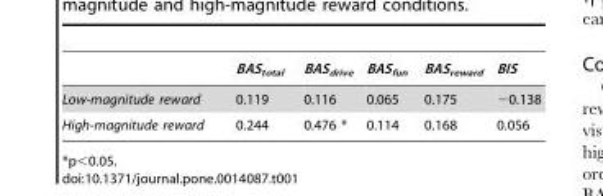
<table><thead><tr><td></td><td>BAS<sub>total</sub></td><td>BAS<sub>drive</sub></td><td>BAS<sub>fun</sub></td><td>BAS<sub>reward</sub></td><td>BIS</td></tr></thead><tbody><tr><td>Low-magnitude reward</td><td>0.119</td><td>0.116</td><td>0.065</td><td>0.175</td><td>−0.138</td></tr><tr><td>High-magnitude reward</td><td>0.244</td><td>0.476 *</td><td>0.114</td><td>0.168</td><td>0.056</td></tr></tbody></table>